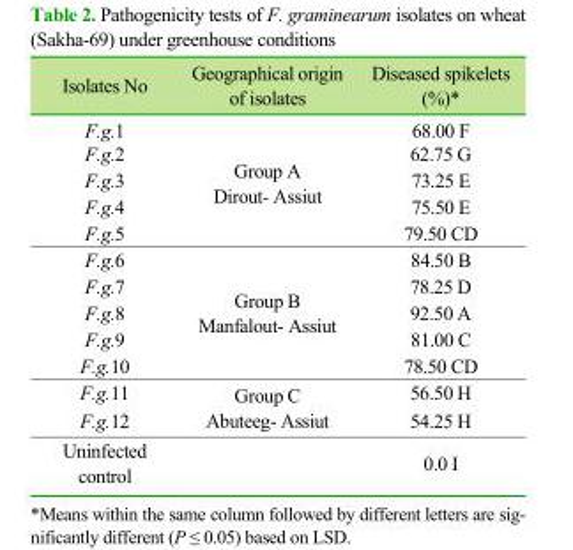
<table><thead><tr><td>Isolates No</td><td>Geographical origin of isolates</td><td>Diseased spikelets (%)*</td></tr></thead><tbody><tr><td>F.g.1</td><td rowspan="5">Group A Dirout- Assiut</td><td>68.00 F</td></tr><tr><td>F.g.2</td><td>62.75 G</td></tr><tr><td>F.g.3</td><td>73.25 E</td></tr><tr><td>F.g.4</td><td>75.50 E</td></tr><tr><td>F.g.5</td><td>79.50 CD</td></tr><tr><td>F.g.6</td><td rowspan="5">Group B Manfalout- Assiut</td><td>84.50 B</td></tr><tr><td>F.g.7</td><td>78.25 D</td></tr><tr><td>F.g.8</td><td>92.50 A</td></tr><tr><td>F.g.9</td><td>81.00 C</td></tr><tr><td>F.g.10</td><td>78.50 CD</td></tr><tr><td>F.g.11</td><td rowspan="2">Group C Abuteeg- Assiut</td><td>56.50 H</td></tr><tr><td>F.g.12</td><td>54.25 H</td></tr><tr><td>Uninfected control</td><td></td><td>0.0 I</td></tr></tbody></table>